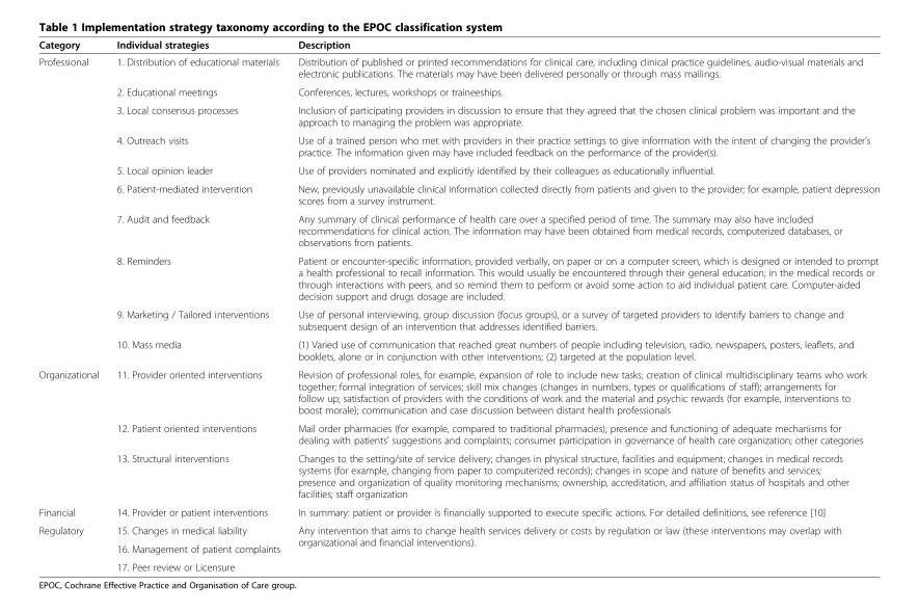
<table><thead><tr><td>Category</td><td>Individual strategies</td><td>Description</td></tr></thead><tbody><tr><td rowspan="10">Professional</td><td>1. Distribution of educational materials</td><td>Distribution of published or printed recommendations for clinical care, including clinical practice guidelines, audio-visual materials and electronic publications. The materials may have been delivered personally or through mass mailings.</td></tr><tr><td>2. Educational meetings</td><td>Conferences, lectures, workshops or traineeships.</td></tr><tr><td>3. Local consensus processes</td><td>Inclusion of participating providers in discussion to ensure that they agreed that the chosen clinical problem was important and the approach to managing the problem was appropriate.</td></tr><tr><td>4. Outreach visits</td><td>Use of a trained person who met with providers in their practice settings to give information with the intent of changing the provider’s practice. The information given may have included feedback on the performance of the provider(s).</td></tr><tr><td>5. Local opinion leader</td><td>Use of providers nominated and explicitly identified by their colleagues as educationally influential.</td></tr><tr><td>6. Patient-mediated intervention</td><td>New, previously unavailable clinical information collected directly from patients and given to the provider; for example, patient depression scores from a survey instrument.</td></tr><tr><td>7. Audit and feedback</td><td>Any summary of clinical performance of health care over a specified period of time. The summary may also have included recommendations for clinical action. The information may have been obtained from medical records, computerized databases, or observations from patients.</td></tr><tr><td>8. Reminders</td><td>Patient or encounter-specific information, provided verbally, on paper or on a computer screen, which is designed or intended to prompt a health professional to recall information. This would usually be encountered through their general education; in the medical records or through interactions with peers, and so remind them to perform or avoid some action to aid individual patient care. Computer-aided decision support and drugs dosage are included.</td></tr><tr><td>9. Marketing / Tailored interventions</td><td>Use of personal interviewing, group discussion (focus groups), or a survey of targeted providers to identify barriers to change and subsequent design of an intervention that addresses identified barriers.</td></tr><tr><td>10. Mass media</td><td>(1) Varied use of communication that reached great numbers of people including television, radio, newspapers, posters, leaflets, and booklets, alone or in conjunction with other interventions; (2) targeted at the population level.</td></tr><tr><td rowspan="3">Organizational</td><td>11. Provider oriented interventions</td><td>Revision of professional roles, for example, expansion of role to include new tasks; creation of clinical multidisciplinary teams who work together; formal integration of services; skill mix changes (changes in numbers, types or qualifications of staff); arrangements for follow up; satisfaction of providers with the conditions of work and the material and psychic rewards (for example, interventions to boost morale); communication and case discussion between distant health professionals</td></tr><tr><td>12. Patient oriented interventions</td><td>Mail order pharmacies (for example, compared to traditional pharmacies); presence and functioning of adequate mechanisms for dealing with patients’ suggestions and complaints; consumer participation in governance of health care organization; other categories</td></tr><tr><td>13. Structural interventions</td><td>Changes to the setting/site of service delivery; changes in physical structure, facilities and equipment; changes in medical records systems (for example, changing from paper to computerized records); changes in scope and nature of benefits and services; presence and organization of quality monitoring mechanisms; ownership, accreditation, and affiliation status of hospitals and other facilities; staff organization</td></tr><tr><td>Financial</td><td>14. Provider or patient interventions</td><td>In summary: patient or provider is financially supported to execute specific actions. For detailed definitions, see reference [10]</td></tr><tr><td rowspan="3">Regulatory</td><td>15. Changes in medical liability</td><td rowspan="3">Any intervention that aims to change health services delivery or costs by regulation or law (these interventions may overlap with organizational and financial interventions).</td></tr><tr><td>16. Management of patient complaints</td></tr><tr><td>17. Peer review or Licensure</td></tr></tbody></table>